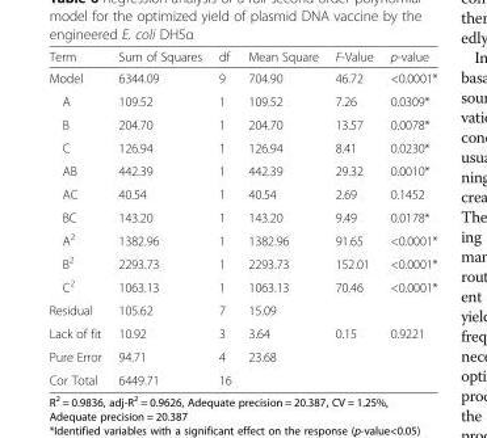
<table><thead><tr><td>Term</td><td>Sum of Squares</td><td>df</td><td>Mean Square</td><td>F-Value</td><td>p-value</td></tr></thead><tbody><tr><td>Model</td><td>6344.09</td><td>9</td><td>704.90</td><td>46.72</td><td>&lt;0.0001*</td></tr><tr><td>A</td><td>109.52</td><td>1</td><td>109.52</td><td>7.26</td><td>0.0309*</td></tr><tr><td>B</td><td>204.70</td><td>1</td><td>204.70</td><td>13.57</td><td>0.0078*</td></tr><tr><td>C</td><td>126.94</td><td>1</td><td>126.94</td><td>8.41</td><td>0.0230*</td></tr><tr><td>AB</td><td>442.39</td><td>1</td><td>442.39</td><td>29.32</td><td>0.0010*</td></tr><tr><td>AC</td><td>40.54</td><td>1</td><td>40.54</td><td>2.69</td><td>0.1452</td></tr><tr><td>BC</td><td>143.20</td><td>1</td><td>143.20</td><td>9.49</td><td>0.0178*</td></tr><tr><td>A<sup>2</sup></td><td>1382.96</td><td>1</td><td>1382.96</td><td>91.65</td><td>&lt;0.0001*</td></tr><tr><td>B<sup>2</sup></td><td>2293.73</td><td>1</td><td>2293.73</td><td>152.01</td><td>&lt;0.0001*</td></tr><tr><td>C<sup>2</sup></td><td>1063.13</td><td>1</td><td>1063.13</td><td>70.46</td><td>&lt;0.0001*</td></tr><tr><td>Residual</td><td>105.62</td><td>7</td><td>15.09</td><td></td><td></td></tr><tr><td>Lack of fit</td><td>10.92</td><td>3</td><td>3.64</td><td>0.15</td><td>0.9221</td></tr><tr><td>Pure Error</td><td>94.71</td><td>4</td><td>23.68</td><td></td><td></td></tr><tr><td>Cor Total</td><td>6449.71</td><td>16</td><td></td><td></td><td></td></tr></tbody></table>